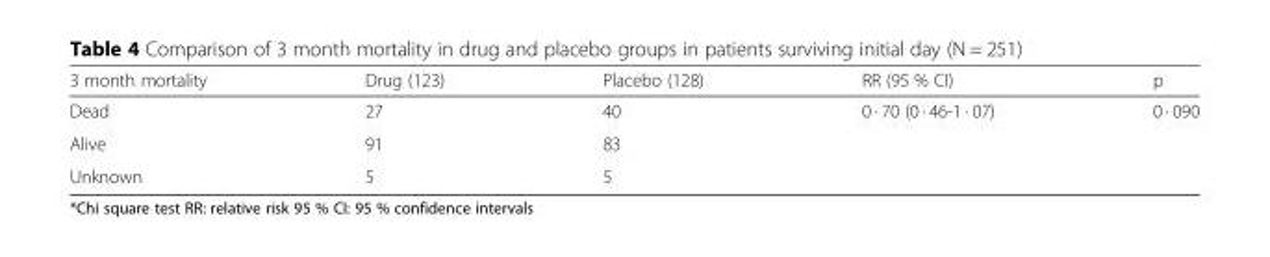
<table><thead><tr><td>3 month mortality</td><td>Drug (123)</td><td>Placebo (128)</td><td>RR (95 % CI)</td><td>p</td></tr></thead><tbody><tr><td>Dead</td><td>27</td><td>40</td><td rowspan="2">0 · 70 (0 · 46-1 · 07)</td><td rowspan="2">0 · 090</td></tr><tr><td>Alive</td><td>91</td><td>83</td></tr><tr><td>Unknown</td><td>5</td><td>5</td><td></td><td></td></tr></tbody></table>